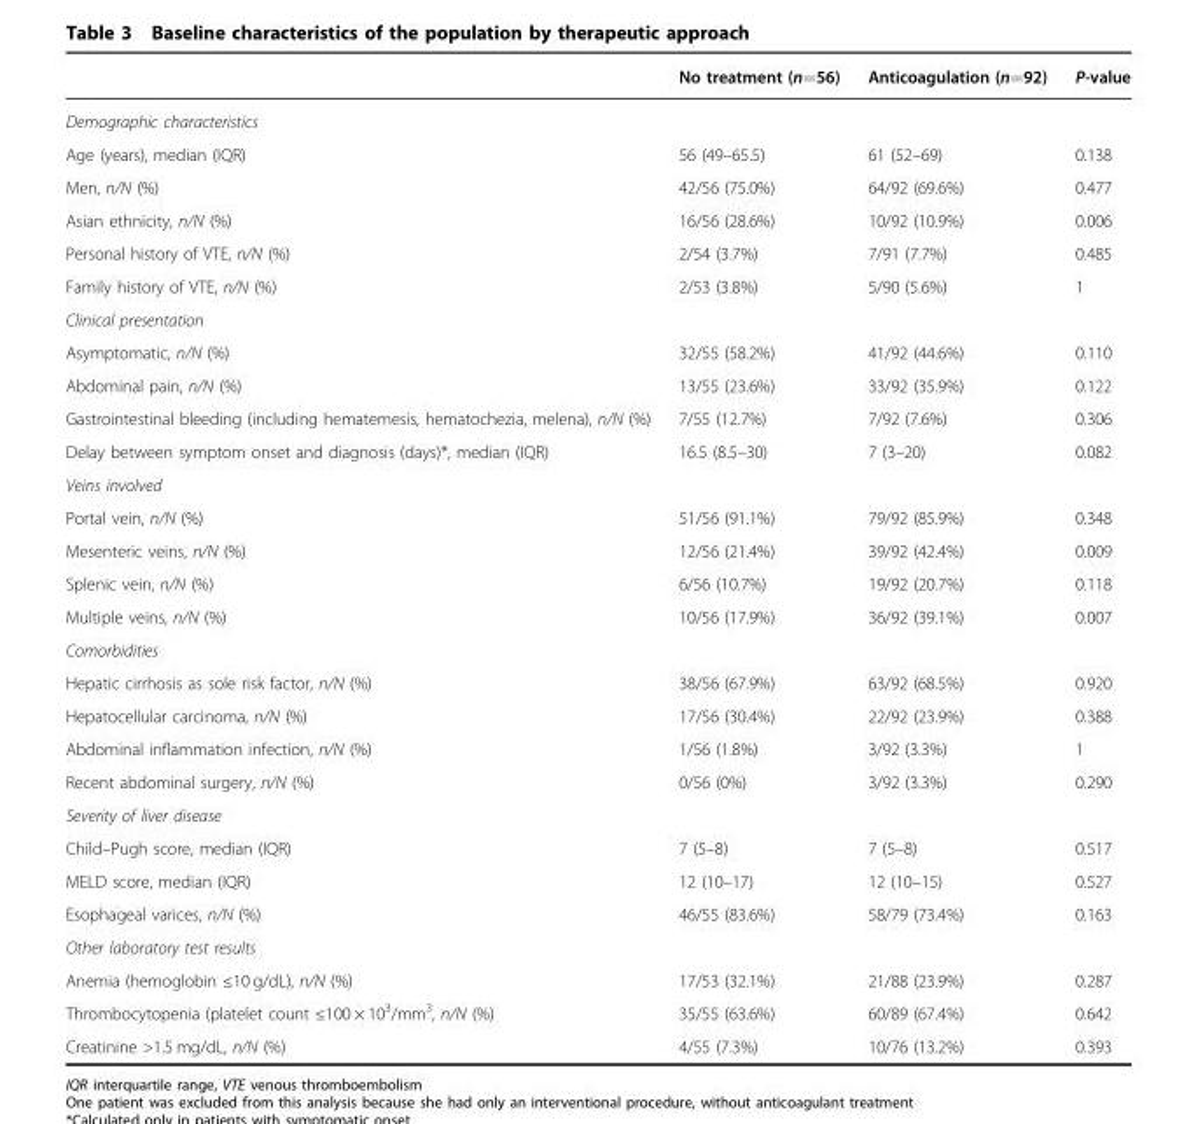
<table><thead><tr><td></td><td>No treatment (n=56)</td><td>Anticoagulation (n=92)</td><td>P-value</td></tr></thead><tbody><tr><td colspan="4">Demographic characteristics</td></tr><tr><td>Age (years), median (IQR)</td><td>56 (49–65.5)</td><td>61 (52–69)</td><td>0.138</td></tr><tr><td>Men, n/N (%)</td><td>42/56 (75.0%)</td><td>64/92 (69.6%)</td><td>0.477</td></tr><tr><td>Asian ethnicity, n/N (%)</td><td>16/56 (28.6%)</td><td>10/92 (10.9%)</td><td>0.006</td></tr><tr><td>Personal history of VTE, n/N (%)</td><td>2/54 (3.7%)</td><td>7/91 (7.7%)</td><td>0.485</td></tr><tr><td>Family history of VTE, n/N (%)</td><td>2/53 (3.8%)</td><td>5/90 (5.6%)</td><td>1</td></tr><tr><td colspan="4">Clinical presentation</td></tr><tr><td>Asymptomatic, n/N (%)</td><td>32/55 (58.2%)</td><td>41/92 (44.6%)</td><td>0.110</td></tr><tr><td>Abdominal pain, n/N (%)</td><td>13/55 (23.6%)</td><td>33/92 (35.9%)</td><td>0.122</td></tr><tr><td>Gastrointestinal bleeding (including hematemesis, hematochezia, melena), n/N (%)</td><td>7/55 (12.7%)</td><td>7/92 (7.6%)</td><td>0.306</td></tr><tr><td>Delay between symptom onset and diagnosis (days)*, median (IQR)</td><td>16.5 (8.5–30)</td><td>7 (3–20)</td><td>0.082</td></tr><tr><td colspan="4">Veins involved</td></tr><tr><td>Portal vein, n/N (%)</td><td>51/56 (91.1%)</td><td>79/92 (85.9%)</td><td>0.348</td></tr><tr><td>Mesenteric veins, n/N (%)</td><td>12/56 (21.4%)</td><td>39/92 (42.4%)</td><td>0.009</td></tr><tr><td>Splenic vein, n/N (%)</td><td>6/56 (10.7%)</td><td>19/92 (20.7%)</td><td>0.118</td></tr><tr><td>Multiple veins, n/N (%)</td><td>10/56 (17.9%)</td><td>36/92 (39.1%)</td><td>0.007</td></tr><tr><td colspan="4">Comorbidities</td></tr><tr><td>Hepatic cirrhosis as sole risk factor, n/N (%)</td><td>38/56 (67.9%)</td><td>63/92 (68.5%)</td><td>0.920</td></tr><tr><td>Hepatocellular carcinoma, n/N (%)</td><td>17/56 (30.4%)</td><td>22/92 (23.9%)</td><td>0.388</td></tr><tr><td>Abdominal inflammation infection, n/N (%)</td><td>1/56 (1.8%)</td><td>3/92 (3.3%)</td><td>1</td></tr><tr><td>Recent abdominal surgery, n/N (%)</td><td>0/56 (0%)</td><td>3/92 (3.3%)</td><td>0.290</td></tr><tr><td colspan="4">Severity of liver disease</td></tr><tr><td>Child–Pugh score, median (IQR)</td><td>7 (5–8)</td><td>7 (5–8)</td><td>0.517</td></tr><tr><td>MELD score, median (IQR)</td><td>12 (10–17)</td><td>12 (10–15)</td><td>0.527</td></tr><tr><td>Esophageal varices, n/N (%)</td><td>46/55 (83.6%)</td><td>58/79 (73.4%)</td><td>0.163</td></tr><tr><td colspan="4">Other laboratory test results</td></tr><tr><td>Anemia (hemoglobin ≤10 g/dL), n/N (%)</td><td>17/53 (32.1%)</td><td>21/88 (23.9%)</td><td>0.287</td></tr><tr><td>Thrombocytopenia (platelet count ≤100 × 10<sup>3</sup>/mm<sup>3</sup>, n/N (%)</td><td>35/55 (63.6%)</td><td>60/89 (67.4%)</td><td>0.642</td></tr><tr><td>Creatinine &gt;1.5 mg/dL, n/N (%)</td><td>4/55 (7.3%)</td><td>10/76 (13.2%)</td><td>0.393</td></tr></tbody></table>